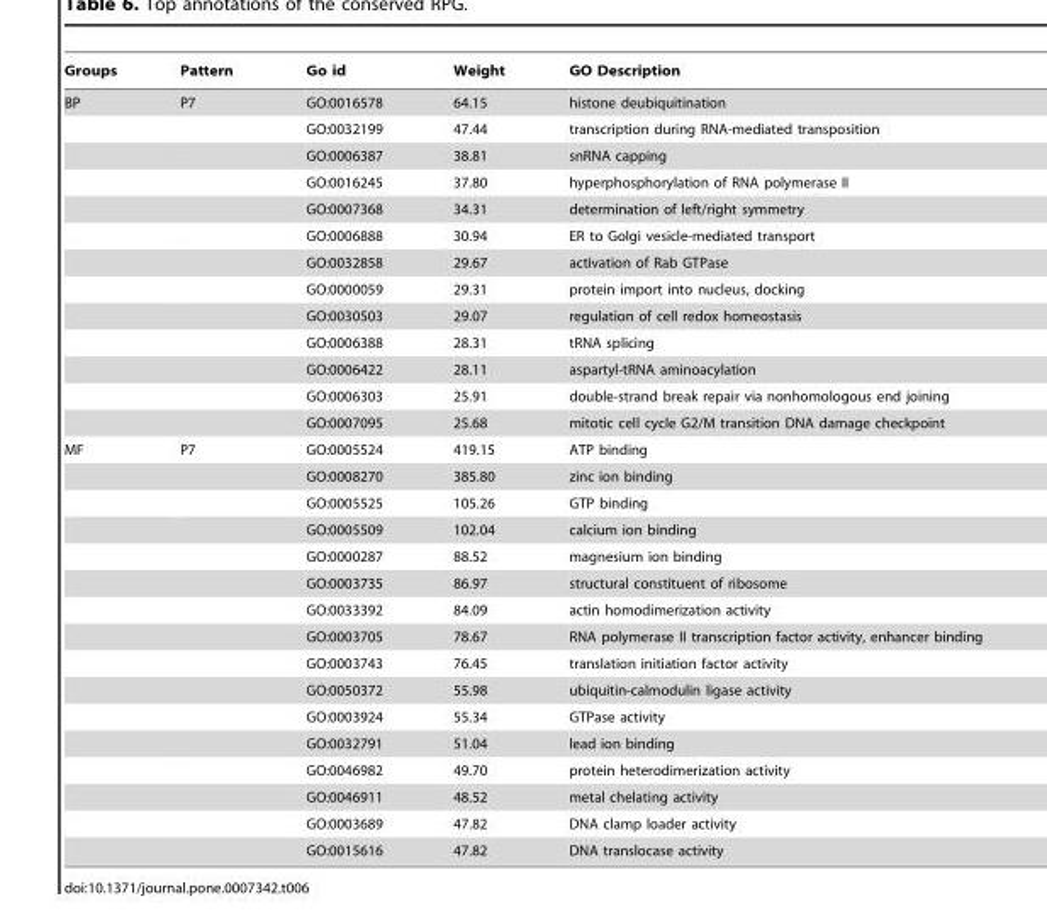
<table><thead><tr><td>Groups</td><td>Pattern</td><td>Go id</td><td>Weight</td><td>GO Description</td></tr></thead><tbody><tr><td rowspan="13">BP</td><td>P7</td><td>GO:0016578</td><td>64.15</td><td>histone deubiquitination</td></tr><tr><td></td><td>GO:0032199</td><td>47.44</td><td>transcription during RNA-mediated transposition</td></tr><tr><td></td><td>GO:0006387</td><td>38.81</td><td>snRNA capping</td></tr><tr><td></td><td>GO:0016245</td><td>37.80</td><td>hyperphosphorylation of RNA polymerase II</td></tr><tr><td></td><td>GO:0007368</td><td>34.31</td><td>determination of left/right symmetry</td></tr><tr><td></td><td>GO:0006888</td><td>30.94</td><td>ER to Golgi vesicle-mediated transport</td></tr><tr><td></td><td>GO:0032858</td><td>29.67</td><td>activation of Rab GTPase</td></tr><tr><td></td><td>GO:0000059</td><td>29.31</td><td>protein import into nucleus, docking</td></tr><tr><td></td><td>GO:0030503</td><td>29.07</td><td>regulation of cell redox homeostasis</td></tr><tr><td></td><td>GO:0006388</td><td>28.31</td><td>tRNA splicing</td></tr><tr><td></td><td>GO:0006422</td><td>28.11</td><td>aspartyl-tRNA aminoacylation</td></tr><tr><td></td><td>GO:0006303</td><td>25.91</td><td>double-strand break repair via nonhomologous end joining</td></tr><tr><td></td><td>GO:0007095</td><td>25.68</td><td>mitotic cell cycle G2/M transition DNA damage checkpoint</td></tr><tr><td rowspan="16">MF</td><td>P7</td><td>GO:0005524</td><td>419.15</td><td>ATP binding</td></tr><tr><td></td><td>GO:0008270</td><td>385.80</td><td>zinc ion binding</td></tr><tr><td></td><td>GO:0005525</td><td>105.26</td><td>GTP binding</td></tr><tr><td></td><td>GO:0005509</td><td>102.04</td><td>calcium ion binding</td></tr><tr><td></td><td>GO:0000287</td><td>88.52</td><td>magnesium ion binding</td></tr><tr><td></td><td>GO:0003735</td><td>86.97</td><td>structural constituent of ribosome</td></tr><tr><td></td><td>GO:0033392</td><td>84.09</td><td>actin homodimerization activity</td></tr><tr><td></td><td>GO:0003705</td><td>78.67</td><td>RNA polymerase II transcription factor activity, enhancer binding</td></tr><tr><td></td><td>GO:0003743</td><td>76.45</td><td>translation initiation factor activity</td></tr><tr><td></td><td>GO:0050372</td><td>55.98</td><td>ubiquitin-calmodulin ligase activity</td></tr><tr><td></td><td>GO:0003924</td><td>55.34</td><td>GTPase activity</td></tr><tr><td></td><td>GO:0032791</td><td>51.04</td><td>lead ion binding</td></tr><tr><td></td><td>GO:0046982</td><td>49.70</td><td>protein heterodimerization activity</td></tr><tr><td></td><td>GO:0046911</td><td>48.52</td><td>metal chelating activity</td></tr><tr><td></td><td>GO:0003689</td><td>47.82</td><td>DNA clamp loader activity</td></tr><tr><td></td><td>GO:0015616</td><td>47.82</td><td>DNA translocase activity</td></tr></tbody></table>